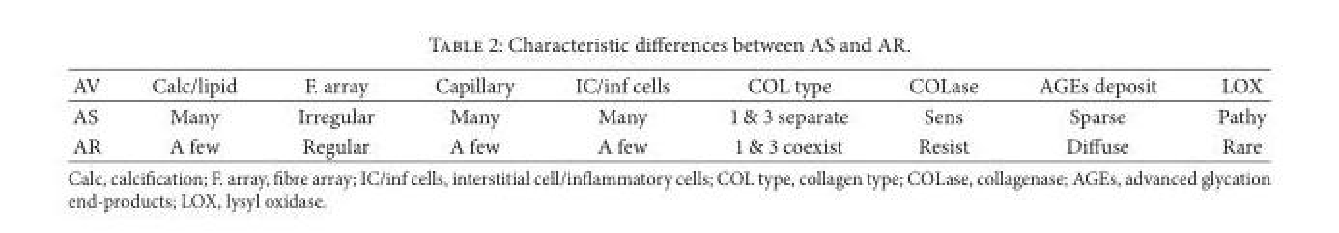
<table><thead><tr><td>AV</td><td>Calc/lipid</td><td>F. array</td><td>Capillary</td><td>IC/inf cells</td><td>COL type</td><td>COLase</td><td>AGEs deposit</td><td>LOX</td></tr></thead><tbody><tr><td>AS</td><td>Many</td><td>Irregular</td><td>Many</td><td>Many</td><td>1 &amp; 3 separate</td><td>Sens</td><td>Sparse</td><td>Pathy</td></tr><tr><td>AR</td><td>A few</td><td>Regular</td><td>A few</td><td>A few</td><td>1 &amp; 3 coexist</td><td>Resist</td><td>Diffuse</td><td>Rare</td></tr></tbody></table>